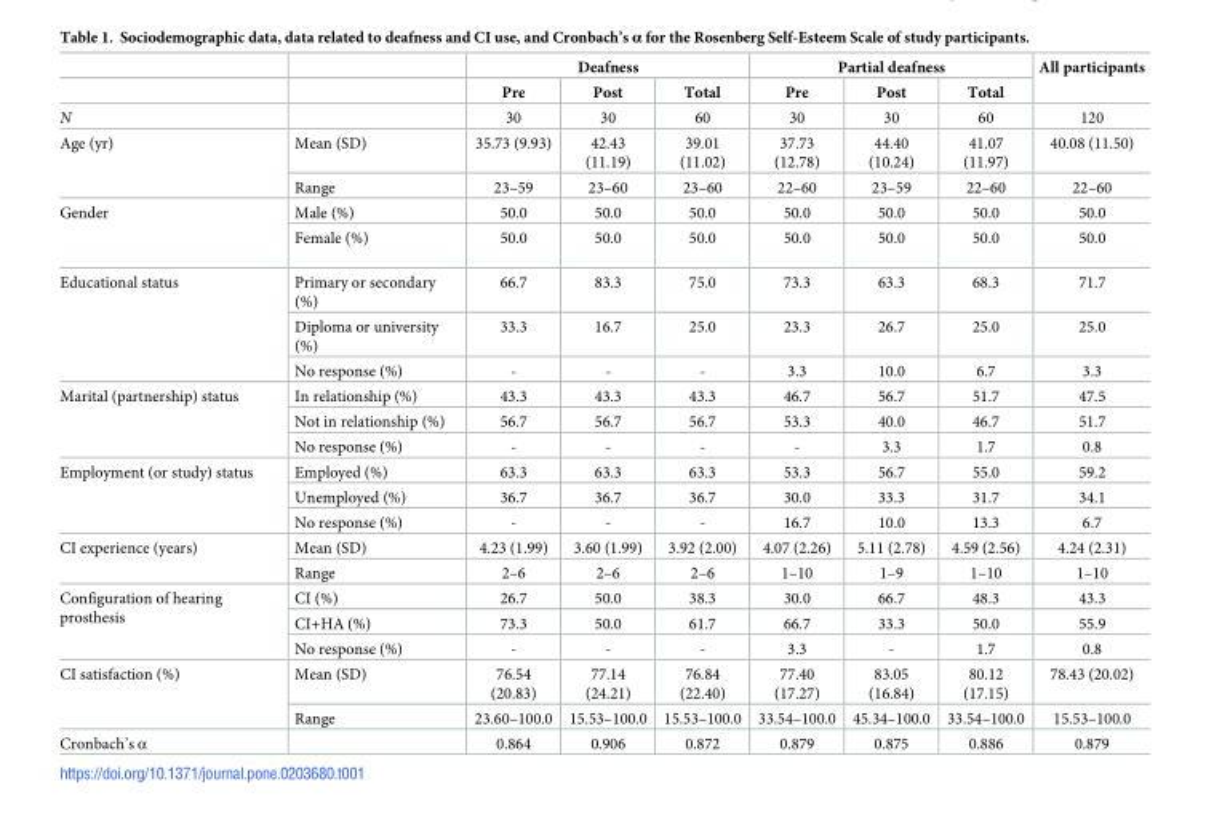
<table><thead><tr><td rowspan="2"></td><td rowspan="2"></td><td colspan="3">Deafness</td><td colspan="3">Partial deafness</td><td rowspan="2">All participants</td></tr><tr><td>Pre</td><td>Post</td><td>Total</td><td>Pre</td><td>Post</td><td>Total</td></tr></thead><tbody><tr><td>N</td><td></td><td>30</td><td>30</td><td>60</td><td>30</td><td>30</td><td>60</td><td>120</td></tr><tr><td rowspan="2">Age (yr)</td><td>Mean (SD)</td><td>35.73 (9.93)</td><td>42.43 (11.19)</td><td>39.01 (11.02)</td><td>37.73 (12.78)</td><td>44.40 (10.24)</td><td>41.07 (11.97)</td><td>40.08 (11.50)</td></tr><tr><td>Range</td><td>23–59</td><td>23–60</td><td>23–60</td><td>22–60</td><td>23–59</td><td>22–60</td><td>22–60</td></tr><tr><td rowspan="2">Gender</td><td>Male (%)</td><td>50.0</td><td>50.0</td><td>50.0</td><td>50.0</td><td>50.0</td><td>50.0</td><td>50.0</td></tr><tr><td>Female (%)</td><td>50.0</td><td>50.0</td><td>50.0</td><td>50.0</td><td>50.0</td><td>50.0</td><td>50.0</td></tr><tr><td rowspan="3">Educational status</td><td>Primary or secondary (%)</td><td>66.7</td><td>83.3</td><td>75.0</td><td>73.3</td><td>63.3</td><td>68.3</td><td>71.7</td></tr><tr><td>Diploma or university (%)</td><td>33.3</td><td>16.7</td><td>25.0</td><td>23.3</td><td>26.7</td><td>25.0</td><td>25.0</td></tr><tr><td>No response (%)</td><td>-</td><td>-</td><td>-</td><td>3.3</td><td>10.0</td><td>6.7</td><td>3.3</td></tr><tr><td rowspan="3">Marital (partnership) status</td><td>In relationship (%)</td><td>43.3</td><td>43.3</td><td>43.3</td><td>46.7</td><td>56.7</td><td>51.7</td><td>47.5</td></tr><tr><td>Not in relationship (%)</td><td>56.7</td><td>56.7</td><td>56.7</td><td>53.3</td><td>40.0</td><td>46.7</td><td>51.7</td></tr><tr><td>No response (%)</td><td>-</td><td>-</td><td>-</td><td>-</td><td>3.3</td><td>1.7</td><td>0.8</td></tr><tr><td rowspan="3">Employment (or study) status</td><td>Employed (%)</td><td>63.3</td><td>63.3</td><td>63.3</td><td>53.3</td><td>56.7</td><td>55.0</td><td>59.2</td></tr><tr><td>Unemployed (%)</td><td>36.7</td><td>36.7</td><td>36.7</td><td>30.0</td><td>33.3</td><td>31.7</td><td>34.1</td></tr><tr><td>No response (%)</td><td>-</td><td>-</td><td>-</td><td>16.7</td><td>10.0</td><td>13.3</td><td>6.7</td></tr><tr><td rowspan="2">CI experience (years)</td><td>Mean (SD)</td><td>4.23 (1.99)</td><td>3.60 (1.99)</td><td>3.92 (2.00)</td><td>4.07 (2.26)</td><td>5.11 (2.78)</td><td>4.59 (2.56)</td><td>4.24 (2.31)</td></tr><tr><td>Range</td><td>2–6</td><td>2–6</td><td>2–6</td><td>1–10</td><td>1–9</td><td>1–10</td><td>1–10</td></tr><tr><td rowspan="3">Configuration of hearing prosthesis</td><td>CI (%)</td><td>26.7</td><td>50.0</td><td>38.3</td><td>30.0</td><td>66.7</td><td>48.3</td><td>43.3</td></tr><tr><td>CI+HA (%)</td><td>73.3</td><td>50.0</td><td>61.7</td><td>66.7</td><td>33.3</td><td>50.0</td><td>55.9</td></tr><tr><td>No response (%)</td><td>-</td><td>-</td><td>-</td><td>3.3</td><td>-</td><td>1.7</td><td>0.8</td></tr><tr><td rowspan="2">CI satisfaction (%)</td><td>Mean (SD)</td><td>76.54 (20.83)</td><td>77.14 (24.21)</td><td>76.84 (22.40)</td><td>77.40 (17.27)</td><td>83.05 (16.84)</td><td>80.12 (17.15)</td><td>78.43 (20.02)</td></tr><tr><td>Range</td><td>23.60–100.0</td><td>15.53–100.0</td><td>15.53–100.0</td><td>33.54–100.0</td><td>45.34–100.0</td><td>33.54–100.0</td><td>15.53–100.0</td></tr><tr><td>Cronbach’s α</td><td></td><td>0.864</td><td>0.906</td><td>0.872</td><td>0.879</td><td>0.875</td><td>0.886</td><td>0.879</td></tr></tbody></table>